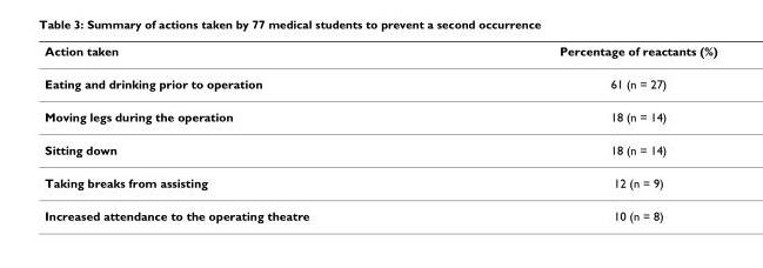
<table><thead><tr><td>Action taken</td><td>Percentage of reactants (%)</td></tr></thead><tbody><tr><td>Eating and drinking prior to operation</td><td>61 (n = 27)</td></tr><tr><td>Moving legs during the operation</td><td>18 (n = 14)</td></tr><tr><td>Sitting down</td><td>18 (n = 14)</td></tr><tr><td>Taking breaks from assisting</td><td>12 (n = 9)</td></tr><tr><td>Increased attendance to the operating theatre</td><td>10 (n = 8)</td></tr></tbody></table>